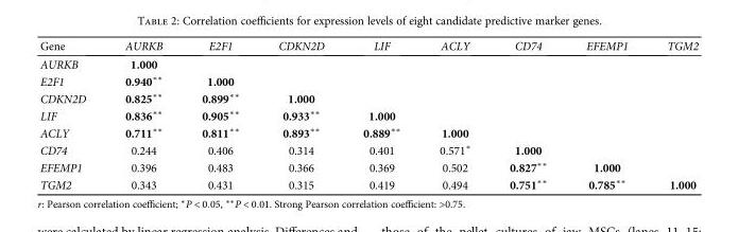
<table><thead><tr><td>Gene</td><td>AURKB</td><td>E2F1</td><td>CDKN2D</td><td>LIF</td><td>ACLY</td><td>CD74</td><td>EFEMP1</td><td>TGM2</td></tr></thead><tbody><tr><td>AURKB</td><td>1.000</td><td></td><td></td><td></td><td></td><td></td><td></td><td></td></tr><tr><td>E2F1</td><td>0.940∗∗</td><td>1.000</td><td></td><td></td><td></td><td></td><td></td><td></td></tr><tr><td>CDKN2D</td><td>0.825∗∗</td><td>0.899∗∗</td><td>1.000</td><td></td><td></td><td></td><td></td><td></td></tr><tr><td>LIF</td><td>0.836∗∗</td><td>0.905∗∗</td><td>0.933∗∗</td><td>1.000</td><td></td><td></td><td></td><td></td></tr><tr><td>ACLY</td><td>0.711∗∗</td><td>0.811∗∗</td><td>0.893∗∗</td><td>0.889∗∗</td><td>1.000</td><td></td><td></td><td></td></tr><tr><td>CD74</td><td>0.244</td><td>0.406</td><td>0.314</td><td>0.401</td><td>0.571∗</td><td>1.000</td><td></td><td></td></tr><tr><td>EFEMP1</td><td>0.396</td><td>0.483</td><td>0.366</td><td>0.369</td><td>0.502</td><td>0.827∗∗</td><td>1.000</td><td></td></tr><tr><td>TGM2</td><td>0.343</td><td>0.431</td><td>0.315</td><td>0.419</td><td>0.494</td><td>0.751∗∗</td><td>0.785∗∗</td><td>1.000</td></tr></tbody></table>